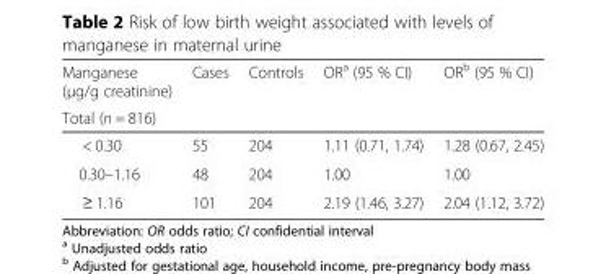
<table><thead><tr><td rowspan="2">Manganese (μg/g creatinine) Total (n = 816)</td><td rowspan="2">Cases</td><td rowspan="2">Controls</td><td rowspan="2">OR<sup>a</sup> (95 % CI)</td><td rowspan="2">OR<sup>b</sup> (95 % CI)</td></tr><tr></tr></thead><tbody><tr><td>&lt; 0.30</td><td>55</td><td>204</td><td>1.11 (0.71, 1.74)</td><td>1.28 (0.67, 2.45)</td></tr><tr><td>0.30–1.16</td><td>48</td><td>204</td><td>1.00</td><td>1.00</td></tr><tr><td>≥ 1.16</td><td>101</td><td>204</td><td>2.19 (1.46, 3.27)</td><td>2.04 (1.12, 3.72)</td></tr></tbody></table>